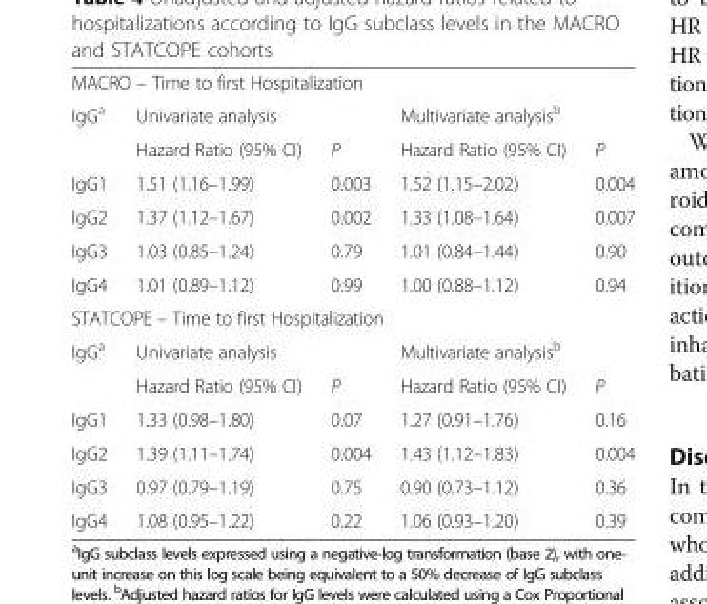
<table><tbody><tr><td colspan="5">MACRO – Time to first Hospitalization</td></tr><tr><td rowspan="2">IgG<sup>a</sup></td><td colspan="2">Univariate analysis</td><td colspan="2">Multivariate analysis<sup>b</sup></td></tr><tr><td>Hazard Ratio (95% CI)</td><td>P</td><td>Hazard Ratio (95% CI)</td><td>P</td></tr><tr><td>IgG1</td><td>1.51 (1.16–1.99)</td><td>0.003</td><td>1.52 (1.15–2.02)</td><td>0.004</td></tr><tr><td>IgG2</td><td>1.37 (1.12–1.67)</td><td>0.002</td><td>1.33 (1.08–1.64)</td><td>0.007</td></tr><tr><td>IgG3</td><td>1.03 (0.85–1.24)</td><td>0.79</td><td>1.01 (0.84–1.44)</td><td>0.90</td></tr><tr><td>IgG4</td><td>1.01 (0.89–1.12)</td><td>0.99</td><td>1.00 (0.88–1.12)</td><td>0.94</td></tr><tr><td colspan="5">STATCOPE – Time to first Hospitalization</td></tr><tr><td rowspan="2">IgG<sup>a</sup></td><td colspan="2">Univariate analysis</td><td colspan="2">Multivariate analysis<sup>b</sup></td></tr><tr><td>Hazard Ratio (95% CI)</td><td>P</td><td>Hazard Ratio (95% CI)</td><td>P</td></tr><tr><td>IgG1</td><td>1.33 (0.98–1.80)</td><td>0.07</td><td>1.27 (0.91–1.76)</td><td>0.16</td></tr><tr><td>IgG2</td><td>1.39 (1.11–1.74)</td><td>0.004</td><td>1.43 (1.12–1.83)</td><td>0.004</td></tr><tr><td>IgG3</td><td>0.97 (0.79–1.19)</td><td>0.75</td><td>0.90 (0.73–1.12)</td><td>0.36</td></tr><tr><td>IgG4</td><td>1.08 (0.95–1.22)</td><td>0.22</td><td>1.06 (0.93–1.20)</td><td>0.39</td></tr></tbody></table>